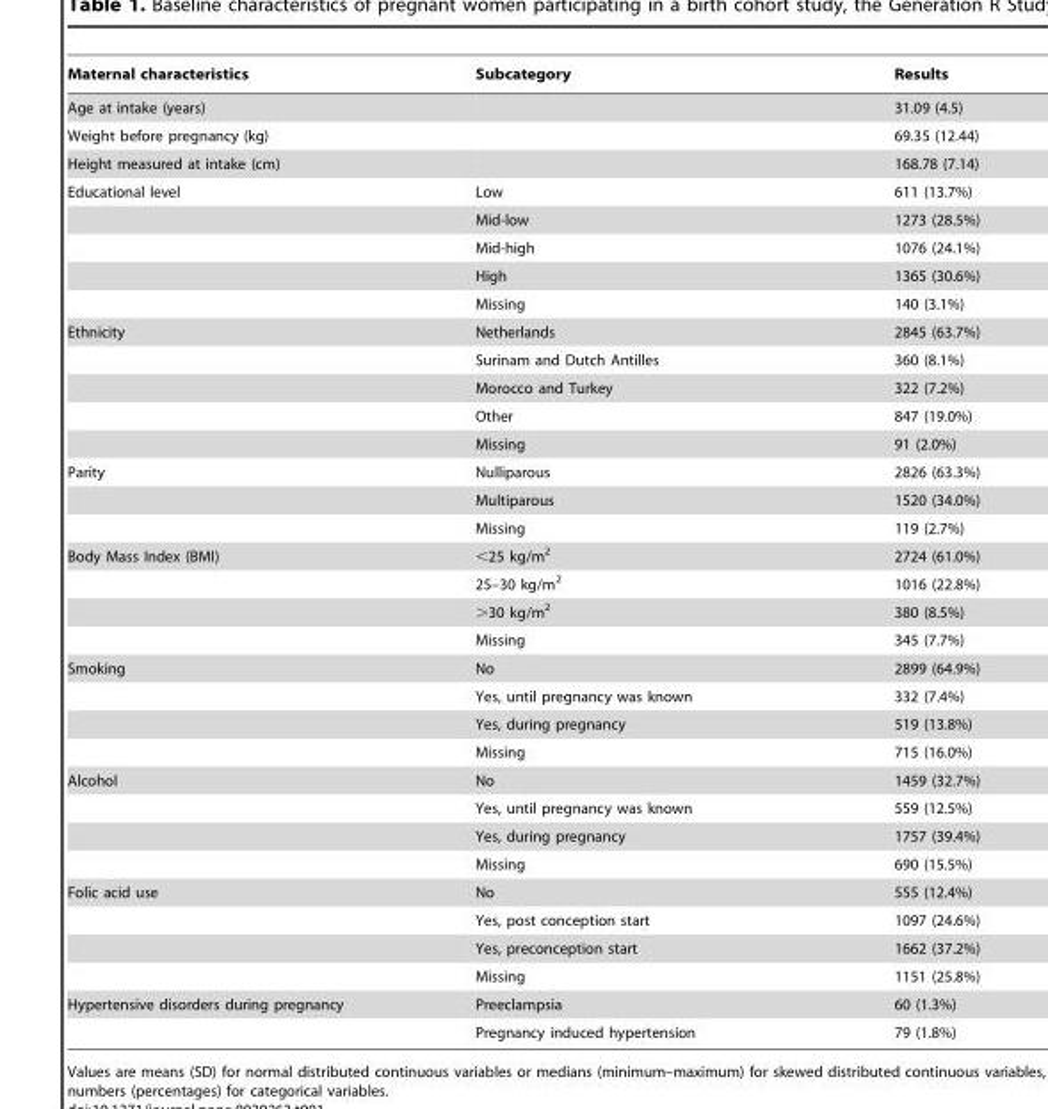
<table><thead><tr><td>Maternal characteristics</td><td>Subcategory</td><td>Results</td></tr></thead><tbody><tr><td>Age at intake (years)</td><td></td><td>31.09 (4.5)</td></tr><tr><td>Weight before pregnancy (kg)</td><td></td><td>69.35 (12.44)</td></tr><tr><td>Height measured at intake (cm)</td><td></td><td>168.78 (7.14)</td></tr><tr><td rowspan="5">Educational level</td><td>Low</td><td>611 (13.7%)</td></tr><tr><td>Mid-low</td><td>1273 (28.5%)</td></tr><tr><td>Mid-high</td><td>1076 (24.1%)</td></tr><tr><td>High</td><td>1365 (30.6%)</td></tr><tr><td>Missing</td><td>140 (3.1%)</td></tr><tr><td rowspan="5">Ethnicity</td><td>Netherlands</td><td>2845 (63.7%)</td></tr><tr><td>Surinam and Dutch Antilles</td><td>360 (8.1%)</td></tr><tr><td>Morocco and Turkey</td><td>322 (7.2%)</td></tr><tr><td>Other</td><td>847 (19.0%)</td></tr><tr><td>Missing</td><td>91 (2.0%)</td></tr><tr><td rowspan="3">Parity</td><td>Nulliparous</td><td>2826 (63.3%)</td></tr><tr><td>Multiparous</td><td>1520 (34.0%)</td></tr><tr><td>Missing</td><td>119 (2.7%)</td></tr><tr><td rowspan="4">Body Mass Index (BMI)</td><td>&lt;25 kg/m<sup>2</sup></td><td>2724 (61.0%)</td></tr><tr><td>25–30 kg/m<sup>2</sup></td><td>1016 (22.8%)</td></tr><tr><td>&gt;30 kg/m<sup>2</sup></td><td>380 (8.5%)</td></tr><tr><td>Missing</td><td>345 (7.7%)</td></tr><tr><td rowspan="4">Smoking</td><td>No</td><td>2899 (64.9%)</td></tr><tr><td>Yes, until pregnancy was known</td><td>332 (7.4%)</td></tr><tr><td>Yes, during pregnancy</td><td>519 (13.8%)</td></tr><tr><td>Missing</td><td>715 (16.0%)</td></tr><tr><td rowspan="4">Alcohol</td><td>No</td><td>1459 (32.7%)</td></tr><tr><td>Yes, until pregnancy was known</td><td>559 (12.5%)</td></tr><tr><td>Yes, during pregnancy</td><td>1757 (39.4%)</td></tr><tr><td>Missing</td><td>690 (15.5%)</td></tr><tr><td rowspan="4">Folic acid use</td><td>No</td><td>555 (12.4%)</td></tr><tr><td>Yes, post conception start</td><td>1097 (24.6%)</td></tr><tr><td>Yes, preconception start</td><td>1662 (37.2%)</td></tr><tr><td>Missing</td><td>1151 (25.8%)</td></tr><tr><td rowspan="2">Hypertensive disorders during pregnancy</td><td>Preeclampsia</td><td>60 (1.3%)</td></tr><tr><td>Pregnancy induced hypertension</td><td>79 (1.8%)</td></tr></tbody></table>